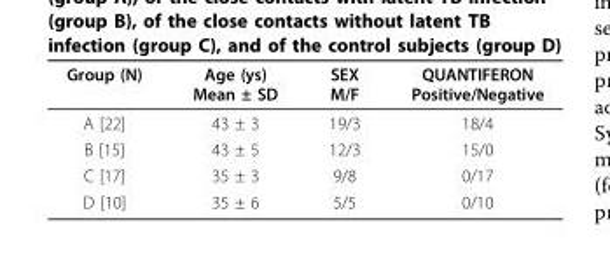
<table><thead><tr><td>Group (N)</td><td>Age (ys) Mean ± SD</td><td>SEX M/F</td><td>QUANTIFERON Positive/Negative</td></tr></thead><tbody><tr><td>A [22]</td><td>43 ± 3</td><td>19/3</td><td>18/4</td></tr><tr><td>B [15]</td><td>43 ± 5</td><td>12/3</td><td>15/0</td></tr><tr><td>C [17]</td><td>35 ± 3</td><td>9/8</td><td>0/17</td></tr><tr><td>D [10]</td><td>35 ± 6</td><td>5/5</td><td>0/10</td></tr></tbody></table>